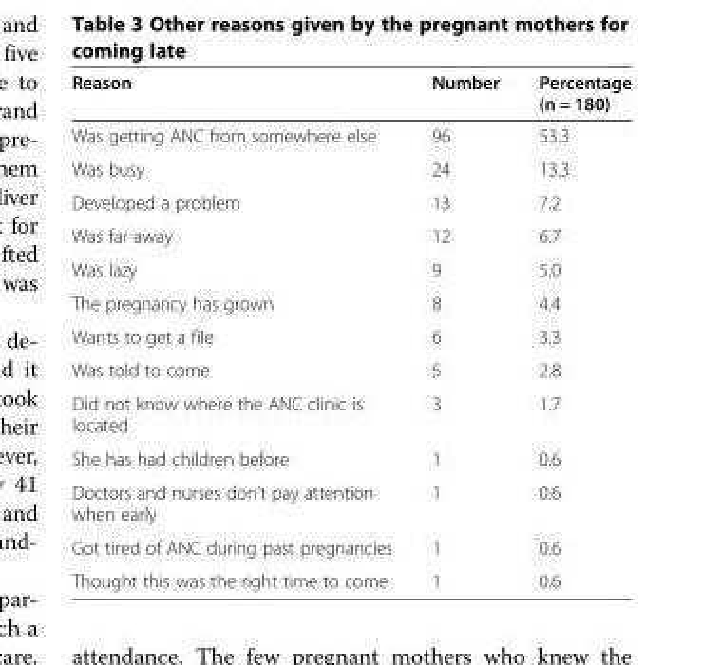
<table><thead><tr><td>Reason</td><td>Number</td><td>Percentage (n = 180)</td></tr></thead><tbody><tr><td>Was getting ANC from somewhere else</td><td>96</td><td>53.3</td></tr><tr><td>Was busy</td><td>24</td><td>13.3</td></tr><tr><td>Developed a problem</td><td>13</td><td>7.2</td></tr><tr><td>Was far away</td><td>12</td><td>6.7</td></tr><tr><td>Was lazy</td><td>9</td><td>5.0</td></tr><tr><td>The pregnancy has grown</td><td>8</td><td>4.4</td></tr><tr><td>Wants to get a file</td><td>6</td><td>3.3</td></tr><tr><td>Was told to come</td><td>5</td><td>2.8</td></tr><tr><td>Did not know where the ANC clinic is located</td><td>3</td><td>1.7</td></tr><tr><td>She has had children before</td><td>1</td><td>0.6</td></tr><tr><td>Doctors and nurses don’t pay attention when early</td><td>1</td><td>0.6</td></tr><tr><td>Got tired of ANC during past pregnancies</td><td>1</td><td>0.6</td></tr><tr><td>Thought this was the right time to come</td><td>1</td><td>0.6</td></tr></tbody></table>